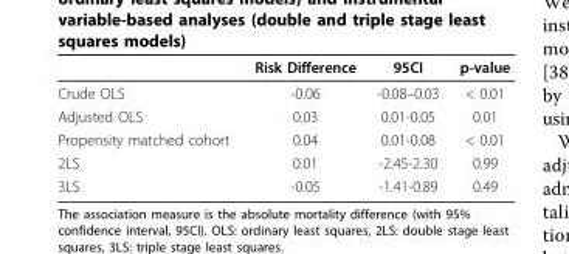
<table><thead><tr><td></td><td>Risk Difference</td><td>95CI</td><td>p-value</td></tr></thead><tbody><tr><td>Crude OLS</td><td>-0.06</td><td>-0.08–0.03</td><td>&lt; 0.01</td></tr><tr><td>Adjusted OLS</td><td>0.03</td><td>0.01-0.05</td><td>0.01</td></tr><tr><td>Propensity matched cohort</td><td>0.04</td><td>0.01-0.08</td><td>&lt; 0.01</td></tr><tr><td>2LS</td><td>0.01</td><td>-2.45-2.30</td><td>0.99</td></tr><tr><td>3LS</td><td>-0.05</td><td>-1.41-0.89</td><td>0.49</td></tr></tbody></table>